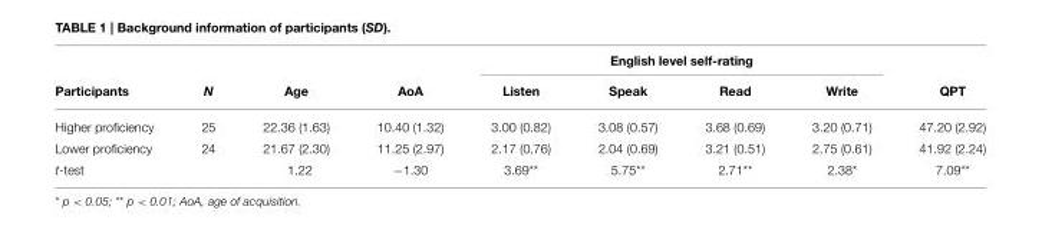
<table><thead><tr><td rowspan="2">Participants</td><td rowspan="2">N</td><td rowspan="2">Age</td><td rowspan="2">AoA</td><td colspan="4">English level self-rating</td><td rowspan="2">QPT</td></tr><tr><td>Listen</td><td>Speak</td><td>Read</td><td>Write</td></tr></thead><tbody><tr><td>Higher proficiency</td><td>25</td><td>22.36 (1.63)</td><td>10.40 (1.32)</td><td>3.00 (0.82)</td><td>3.08 (0.57)</td><td>3.68 (0.69)</td><td>3.20 (0.71)</td><td>47.20 (2.92)</td></tr><tr><td>Lower proficiency</td><td>24</td><td>21.67 (2.30)</td><td>11.25 (2.97)</td><td>2.17 (0.76)</td><td>2.04 (0.69)</td><td>3.21 (0.51)</td><td>2.75 (0.61)</td><td>41.92 (2.24)</td></tr><tr><td>t-test</td><td></td><td>1.22</td><td>−1.30</td><td>3.69**</td><td>5.75**</td><td>2.71**</td><td>2.38*</td><td>7.09**</td></tr></tbody></table>